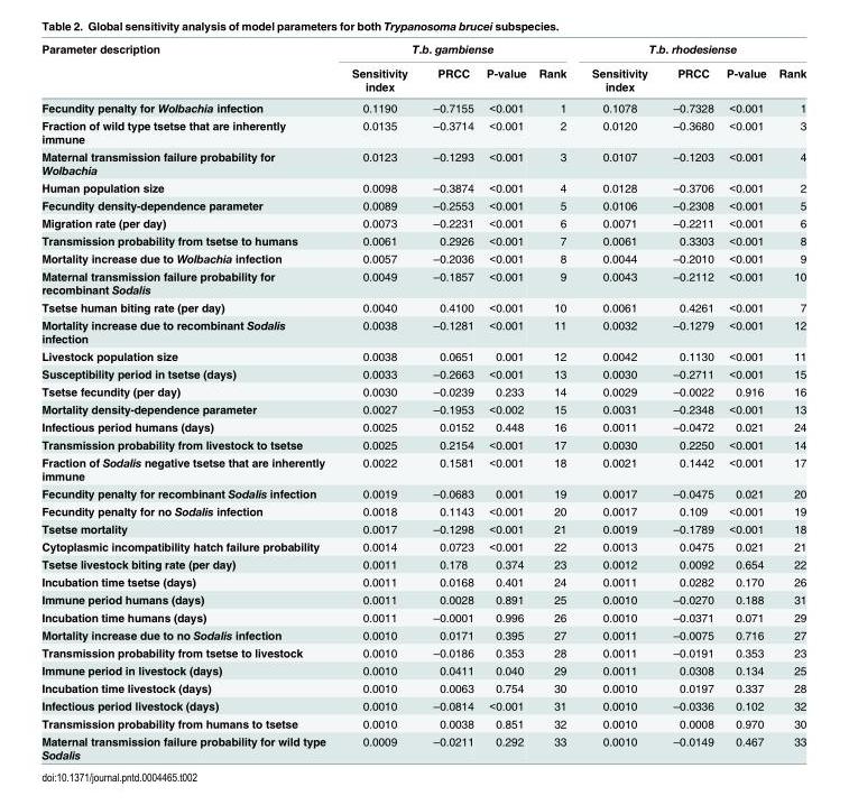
<table><thead><tr><td rowspan="2">Parameter description</td><td colspan="4">T.b. gambiense</td><td colspan="4">T.b. rhodesiense</td></tr><tr><td>Sensitivity index</td><td>PRCC</td><td>P-value</td><td>Rank</td><td>Sensitivity index</td><td>PRCC</td><td>P-value</td><td>Rank</td></tr></thead><tbody><tr><td>Fecundity penalty for Wolbachia infection</td><td>0.1190</td><td>–0.7155</td><td>&lt;0.001</td><td>1</td><td>0.1078</td><td>–0.7328</td><td>&lt;0.001</td><td>1</td></tr><tr><td>Fraction of wild type tsetse that are inherently immune</td><td>0.0135</td><td>–0.3714</td><td>&lt;0.001</td><td>2</td><td>0.0120</td><td>–0.3680</td><td>&lt;0.001</td><td>3</td></tr><tr><td>Maternal transmission failure probability for Wolbachia</td><td>0.0123</td><td>–0.1293</td><td>&lt;0.001</td><td>3</td><td>0.0107</td><td>–0.1203</td><td>&lt;0.001</td><td>4</td></tr><tr><td>Human population size</td><td>0.0098</td><td>–0.3874</td><td>&lt;0.001</td><td>4</td><td>0.0128</td><td>–0.3706</td><td>&lt;0.001</td><td>2</td></tr><tr><td>Fecundity density-dependence parameter</td><td>0.0089</td><td>–0.2553</td><td>&lt;0.001</td><td>5</td><td>0.0106</td><td>–0.2308</td><td>&lt;0.001</td><td>5</td></tr><tr><td>Migration rate (per day)</td><td>0.0073</td><td>–0.2231</td><td>&lt;0.001</td><td>6</td><td>0.0071</td><td>–0.2211</td><td>&lt;0.001</td><td>6</td></tr><tr><td>Transmission probability from tsetse to humans</td><td>0.0061</td><td>0.2926</td><td>&lt;0.001</td><td>7</td><td>0.0061</td><td>0.3303</td><td>&lt;0.001</td><td>8</td></tr><tr><td>Mortality increase due to Wolbachia infection</td><td>0.0057</td><td>–0.2036</td><td>&lt;0.001</td><td>8</td><td>0.0044</td><td>–0.2010</td><td>&lt;0.001</td><td>9</td></tr><tr><td>Maternal transmission failure probability for recombinant Sodalis</td><td>0.0049</td><td>–0.1857</td><td>&lt;0.001</td><td>9</td><td>0.0043</td><td>–0.2112</td><td>&lt;0.001</td><td>10</td></tr><tr><td>Tsetse human biting rate (per day)</td><td>0.0040</td><td>0.4100</td><td>&lt;0.001</td><td>10</td><td>0.0061</td><td>0.4261</td><td>&lt;0.001</td><td>7</td></tr><tr><td>Mortality increase due to recombinant Sodalis infection</td><td>0.0038</td><td>–0.1281</td><td>&lt;0.001</td><td>11</td><td>0.0032</td><td>–0.1279</td><td>&lt;0.001</td><td>12</td></tr><tr><td>Livestock population size</td><td>0.0038</td><td>0.0651</td><td>0.001</td><td>12</td><td>0.0042</td><td>0.1130</td><td>&lt;0.001</td><td>11</td></tr><tr><td>Susceptibility period in tsetse (days)</td><td>0.0033</td><td>–0.2663</td><td>&lt;0.001</td><td>13</td><td>0.0030</td><td>–0.2711</td><td>&lt;0.001</td><td>15</td></tr><tr><td>Tsetse fecundity (per day)</td><td>0.0030</td><td>–0.0239</td><td>0.233</td><td>14</td><td>0.0029</td><td>–0.0022</td><td>0.916</td><td>16</td></tr><tr><td>Mortality density-dependence parameter</td><td>0.0027</td><td>–0.1953</td><td>&lt;0.002</td><td>15</td><td>0.0031</td><td>–0.2348</td><td>&lt;0.001</td><td>13</td></tr><tr><td>Infectious period humans (days)</td><td>0.0025</td><td>0.0152</td><td>0.448</td><td>16</td><td>0.0011</td><td>–0.0472</td><td>0.021</td><td>24</td></tr><tr><td>Transmission probability from livestock to tsetse</td><td>0.0025</td><td>0.2154</td><td>&lt;0.001</td><td>17</td><td>0.0030</td><td>0.2250</td><td>&lt;0.001</td><td>14</td></tr><tr><td>Fraction of Sodalis negative tsetse that are inherently immune</td><td>0.0022</td><td>0.1581</td><td>&lt;0.001</td><td>18</td><td>0.0021</td><td>0.1442</td><td>&lt;0.001</td><td>17</td></tr><tr><td>Fecundity penalty for recombinant Sodalis infection</td><td>0.0019</td><td>–0.0683</td><td>0.001</td><td>19</td><td>0.0017</td><td>–0.0475</td><td>0.021</td><td>20</td></tr><tr><td>Fecundity penalty for no Sodalis infection</td><td>0.0018</td><td>0.1143</td><td>&lt;0.001</td><td>20</td><td>0.0017</td><td>0.109</td><td>&lt;0.001</td><td>19</td></tr><tr><td>Tsetse mortality</td><td>0.0017</td><td>–0.1298</td><td>&lt;0.001</td><td>21</td><td>0.0019</td><td>–0.1789</td><td>&lt;0.001</td><td>18</td></tr><tr><td>Cytoplasmic incompatibility hatch failure probability</td><td>0.0014</td><td>0.0723</td><td>&lt;0.001</td><td>22</td><td>0.0013</td><td>0.0475</td><td>0.021</td><td>21</td></tr><tr><td>Tsetse livestock biting rate (per day)</td><td>0.0011</td><td>0.178</td><td>0.374</td><td>23</td><td>0.0012</td><td>0.0092</td><td>0.654</td><td>22</td></tr><tr><td>Incubation time tsetse (days)</td><td>0.0011</td><td>0.0168</td><td>0.401</td><td>24</td><td>0.0011</td><td>0.0282</td><td>0.170</td><td>26</td></tr><tr><td>Immune period humans (days)</td><td>0.0011</td><td>0.0028</td><td>0.891</td><td>25</td><td>0.0010</td><td>–0.0270</td><td>0.188</td><td>31</td></tr><tr><td>Incubation time humans (days)</td><td>0.0011</td><td>–0.0001</td><td>0.996</td><td>26</td><td>0.0010</td><td>–0.0371</td><td>0.071</td><td>29</td></tr><tr><td>Mortality increase due to no Sodalis infection</td><td>0.0010</td><td>0.0171</td><td>0.395</td><td>27</td><td>0.0011</td><td>–0.0075</td><td>0.716</td><td>27</td></tr><tr><td>Transmission probability from tsetse to livestock</td><td>0.0010</td><td>–0.0186</td><td>0.353</td><td>28</td><td>0.0011</td><td>–0.0191</td><td>0.353</td><td>23</td></tr><tr><td>Immune period in livestock (days)</td><td>0.0010</td><td>0.0411</td><td>0.040</td><td>29</td><td>0.0011</td><td>0.0308</td><td>0.134</td><td>25</td></tr><tr><td>Incubation time livestock (days)</td><td>0.0010</td><td>0.0063</td><td>0.754</td><td>30</td><td>0.0010</td><td>0.0197</td><td>0.337</td><td>28</td></tr><tr><td>Infectious period livestock (days)</td><td>0.0010</td><td>–0.0814</td><td>&lt;0.001</td><td>31</td><td>0.0010</td><td>–0.0336</td><td>0.102</td><td>32</td></tr><tr><td>Transmission probability from humans to tsetse</td><td>0.0010</td><td>0.0038</td><td>0.851</td><td>32</td><td>0.0010</td><td>0.0008</td><td>0.970</td><td>30</td></tr><tr><td>Maternal transmission failure probability for wild type Sodalis</td><td>0.0009</td><td>–0.0211</td><td>0.292</td><td>33</td><td>0.0010</td><td>–0.0149</td><td>0.467</td><td>33</td></tr></tbody></table>